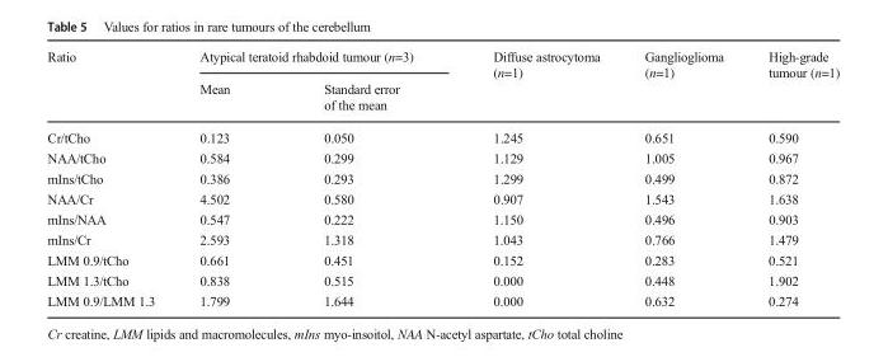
<table><thead><tr><td rowspan="2">Ratio</td><td colspan="2">Atypical teratoid rhabdoid tumour (n=3)</td><td rowspan="2">Diffuse astrocytoma (n=1)</td><td rowspan="2">Ganglioglioma (n=1)</td><td rowspan="2">High-grade tumour (n=1)</td></tr><tr><td>Mean</td><td>Standard error of the mean</td></tr></thead><tbody><tr><td>Cr/tCho</td><td>0.123</td><td>0.050</td><td>1.245</td><td>0.651</td><td>0.590</td></tr><tr><td>NAA/tCho</td><td>0.584</td><td>0.299</td><td>1.129</td><td>1.005</td><td>0.967</td></tr><tr><td>mIns/tCho</td><td>0.386</td><td>0.293</td><td>1.299</td><td>0.499</td><td>0.872</td></tr><tr><td>NAA/Cr</td><td>4.502</td><td>0.580</td><td>0.907</td><td>1.543</td><td>1.638</td></tr><tr><td>mIns/NAA</td><td>0.547</td><td>0.222</td><td>1.150</td><td>0.496</td><td>0.903</td></tr><tr><td>mIns/Cr</td><td>2.593</td><td>1.318</td><td>1.043</td><td>0.766</td><td>1.479</td></tr><tr><td>LMM 0.9/tCho</td><td>0.661</td><td>0.451</td><td>0.152</td><td>0.283</td><td>0.521</td></tr><tr><td>LMM 1.3/tCho</td><td>0.838</td><td>0.515</td><td>0.000</td><td>0.448</td><td>1.902</td></tr><tr><td>LMM 0.9/LMM 1.3</td><td>1.799</td><td>1.644</td><td>0.000</td><td>0.632</td><td>0.274</td></tr></tbody></table>